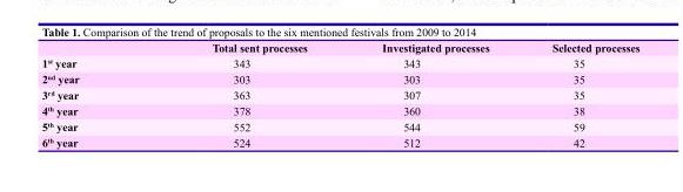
<table><thead><tr><td></td><td>Total sent processes</td><td>Investigated processes</td><td>Selected processes</td></tr></thead><tbody><tr><td>1<sup>st</sup> year</td><td>343</td><td>343</td><td>35</td></tr><tr><td>2<sup>nd</sup> year</td><td>303</td><td>303</td><td>35</td></tr><tr><td>3<sup>rd</sup> year</td><td>363</td><td>307</td><td>35</td></tr><tr><td>4<sup>th</sup> year</td><td>378</td><td>360</td><td>38</td></tr><tr><td>5<sup>th</sup> year</td><td>552</td><td>544</td><td>59</td></tr><tr><td>6<sup>th</sup> year</td><td>524</td><td>512</td><td>42</td></tr></tbody></table>